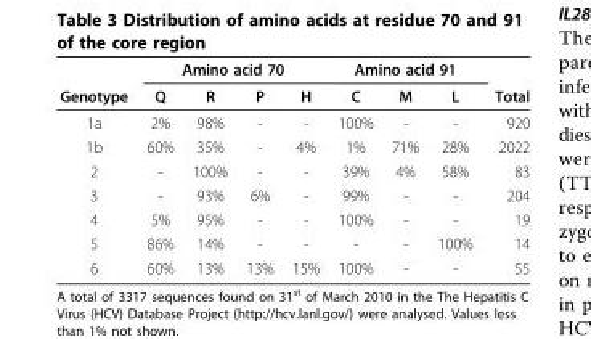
<table><thead><tr><td rowspan="2">Genotype</td><td colspan="4">Amino acid 70</td><td colspan="3">Amino acid 91</td><td rowspan="2">Total</td></tr><tr><td>Q</td><td>R</td><td>P</td><td>H</td><td>C</td><td>M</td><td>L</td></tr></thead><tbody><tr><td>1a</td><td>2%</td><td>98%</td><td>-</td><td>-</td><td>100%</td><td>-</td><td>-</td><td>920</td></tr><tr><td>1b</td><td>60%</td><td>35%</td><td>-</td><td>4%</td><td>1%</td><td>71%</td><td>28%</td><td>2022</td></tr><tr><td>2</td><td>-</td><td>100%</td><td>-</td><td>-</td><td>39%</td><td>4%</td><td>58%</td><td>83</td></tr><tr><td>3</td><td>-</td><td>93%</td><td>6%</td><td>-</td><td>99%</td><td>-</td><td>-</td><td>204</td></tr><tr><td>4</td><td>5%</td><td>95%</td><td>-</td><td>-</td><td>100%</td><td>-</td><td>-</td><td>19</td></tr><tr><td>5</td><td>86%</td><td>14%</td><td>-</td><td>-</td><td>-</td><td>-</td><td>100%</td><td>14</td></tr><tr><td>6</td><td>60%</td><td>13%</td><td>13%</td><td>15%</td><td>100%</td><td>-</td><td>-</td><td>55</td></tr></tbody></table>